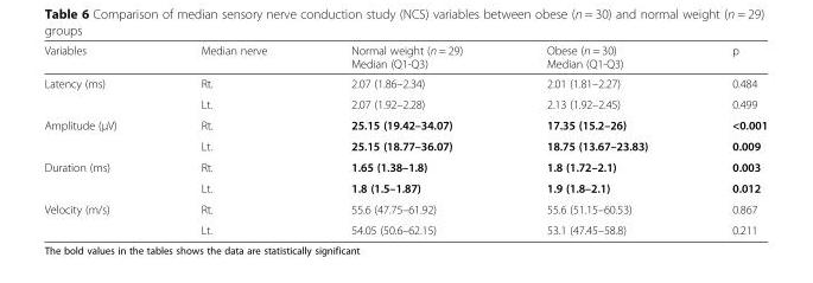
<table><thead><tr><td>Variables</td><td>Median nerve</td><td>Normal weight (n = 29) Median (Q1-Q3)</td><td>Obese (n = 30) Median (Q1-Q3)</td><td>p</td></tr></thead><tbody><tr><td rowspan="2">Latency (ms)</td><td>Rt.</td><td>2.07 (1.86–2.34)</td><td>2.01 (1.81–2.27)</td><td>0.484</td></tr><tr><td>Lt.</td><td>2.07 (1.92–2.28)</td><td>2.13 (1.92–2.45)</td><td>0.499</td></tr><tr><td rowspan="2">Amplitude (μV)</td><td>Rt.</td><td>25.15 (19.42–34.07)</td><td>17.35 (15.2–26)</td><td>&lt;0.001</td></tr><tr><td>Lt.</td><td>25.15 (18.77–36.07)</td><td>18.75 (13.67–23.83)</td><td>0.009</td></tr><tr><td rowspan="2">Duration (ms)</td><td>Rt.</td><td>1.65 (1.38–1.8)</td><td>1.8 (1.72–2.1)</td><td>0.003</td></tr><tr><td>Lt.</td><td>1.8 (1.5–1.87)</td><td>1.9 (1.8–2.1)</td><td>0.012</td></tr><tr><td rowspan="2">Velocity (m/s)</td><td>Rt.</td><td>55.6 (47.75–61.92)</td><td>55.6 (51.15–60.53)</td><td>0.867</td></tr><tr><td>Lt.</td><td>54.05 (50.6–62.15)</td><td>53.1 (47.45–58.8)</td><td>0.211</td></tr></tbody></table>